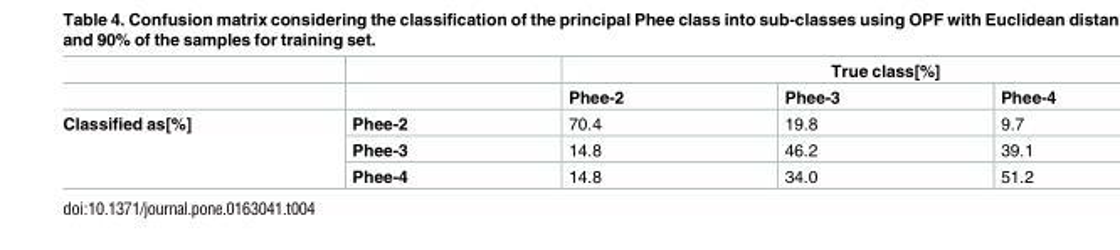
<table><thead><tr><td rowspan="2"></td><td rowspan="2"></td><td colspan="3">True class[%]</td></tr><tr><td>Phee-2</td><td>Phee-3</td><td>Phee-4</td></tr></thead><tbody><tr><td rowspan="3">Classified as[%]</td><td>Phee-2</td><td>70.4</td><td>19.8</td><td>9.7</td></tr><tr><td>Phee-3</td><td>14.8</td><td>46.2</td><td>39.1</td></tr><tr><td>Phee-4</td><td>14.8</td><td>34.0</td><td>51.2</td></tr></tbody></table>